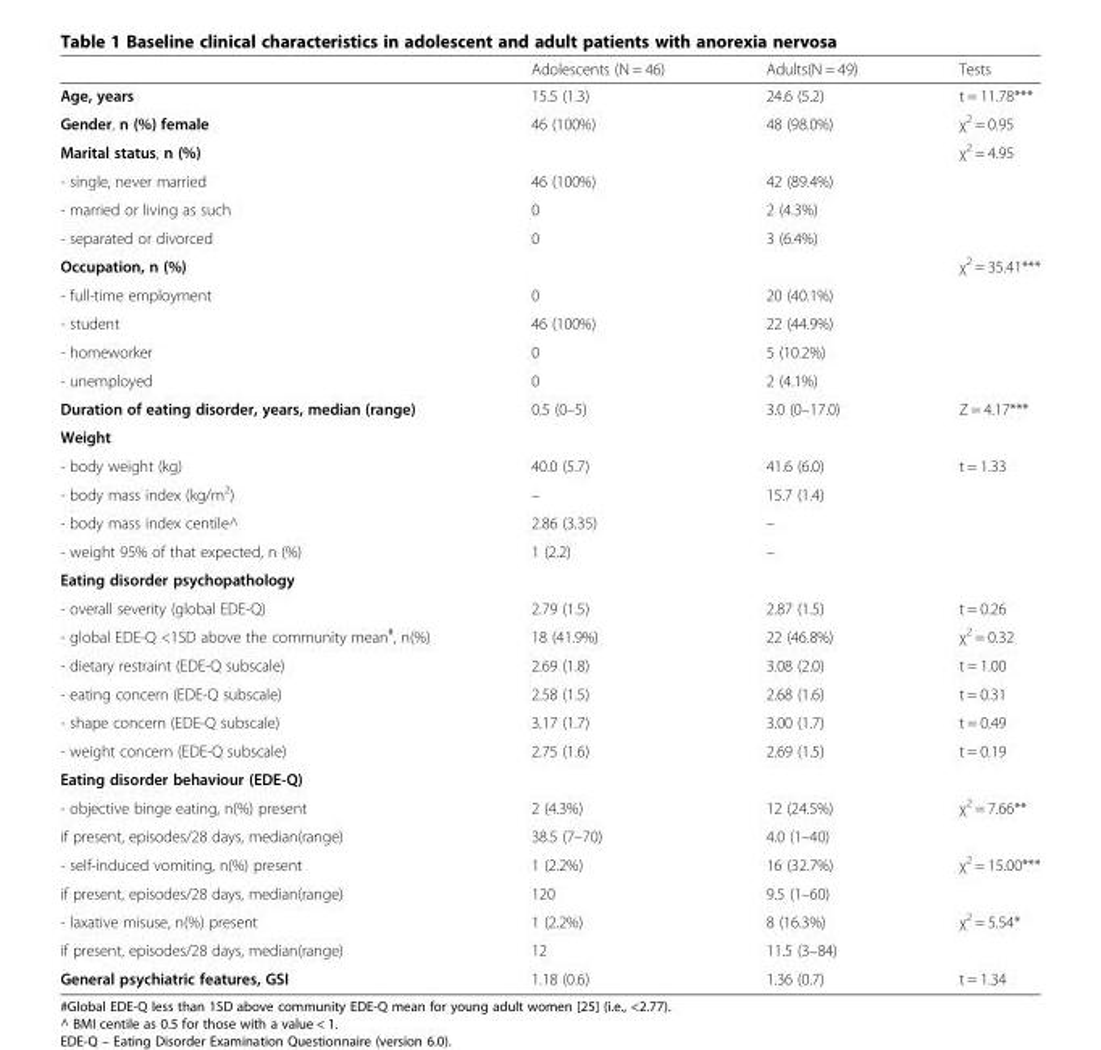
<table><thead><tr><td></td><td>Adolescents (N = 46)</td><td>Adults(N = 49)</td><td>Tests</td></tr></thead><tbody><tr><td>Age, years</td><td>15.5 (1.3)</td><td>24.6 (5.2)</td><td>t = 11.78***</td></tr><tr><td>Gender, n (%) female</td><td>46 (100%)</td><td>48 (98.0%)</td><td>χ<sup>2</sup> = 0.95</td></tr><tr><td>Marital status, n (%)</td><td></td><td></td><td>χ<sup>2</sup> = 4.95</td></tr><tr><td>- single, never married</td><td>46 (100%)</td><td>42 (89.4%)</td><td rowspan="3"></td></tr><tr><td>- married or living as such</td><td>0</td><td>2 (4.3%)</td></tr><tr><td>- separated or divorced</td><td>0</td><td>3 (6.4%)</td></tr><tr><td>Occupation, n (%)</td><td></td><td></td><td>χ<sup>2</sup> = 35.41***</td></tr><tr><td>- full-time employment</td><td>0</td><td>20 (40.1%)</td><td rowspan="4"></td></tr><tr><td>- student</td><td>46 (100%)</td><td>22 (44.9%)</td></tr><tr><td>- homeworker</td><td>0</td><td>5 (10.2%)</td></tr><tr><td>- unemployed</td><td>0</td><td>2 (4.1%)</td></tr><tr><td>Duration of eating disorder, years, median (range)</td><td>0.5 (0–5)</td><td>3.0 (0–17.0)</td><td>Z = 4.17***</td></tr><tr><td colspan="4">Weight</td></tr><tr><td>- body weight (kg)</td><td>40.0 (5.7)</td><td>41.6 (6.0)</td><td>t = 1.33</td></tr><tr><td>- body mass index (kg/m<sup>2</sup>)</td><td>–</td><td>15.7 (1.4)</td><td rowspan="3"></td></tr><tr><td>- body mass index centile^</td><td>2.86 (3.35)</td><td>–</td></tr><tr><td>- weight 95% of that expected, n (%)</td><td>1 (2.2)</td><td>–</td></tr><tr><td colspan="4">Eating disorder psychopathology</td></tr><tr><td>- overall severity (global EDE-Q)</td><td>2.79 (1.5)</td><td>2.87 (1.5)</td><td>t = 0.26</td></tr><tr><td>- global EDE-Q &lt;1SD above the community mean<sup>#</sup>, n(%)</td><td>18 (41.9%)</td><td>22 (46.8%)</td><td>χ<sup>2</sup> = 0.32</td></tr><tr><td>- dietary restraint (EDE-Q subscale)</td><td>2.69 (1.8)</td><td>3.08 (2.0)</td><td>t = 1.00</td></tr><tr><td>- eating concern (EDE-Q subscale)</td><td>2.58 (1.5)</td><td>2.68 (1.6)</td><td>t = 0.31</td></tr><tr><td>- shape concern (EDE-Q subscale)</td><td>3.17 (1.7)</td><td>3.00 (1.7)</td><td>t = 0.49</td></tr><tr><td>- weight concern (EDE-Q subscale)</td><td>2.75 (1.6)</td><td>2.69 (1.5)</td><td>t = 0.19</td></tr><tr><td colspan="4">Eating disorder behaviour (EDE-Q)</td></tr><tr><td>- objective binge eating, n(%) present</td><td>2 (4.3%)</td><td>12 (24.5%)</td><td rowspan="2">χ<sup>2</sup> = 7.66**</td></tr><tr><td>if present, episodes/28 days, median(range)</td><td>38.5 (7–70)</td><td>4.0 (1–40)</td></tr><tr><td>- self-induced vomiting, n(%) present</td><td>1 (2.2%)</td><td>16 (32.7%)</td><td rowspan="2">χ<sup>2</sup> = 15.00***</td></tr><tr><td>if present, episodes/28 days, median(range)</td><td>120</td><td>9.5 (1–60)</td></tr><tr><td>- laxative misuse, n(%) present</td><td>1 (2.2%)</td><td>8 (16.3%)</td><td rowspan="2">χ<sup>2</sup> = 5.54*</td></tr><tr><td>if present, episodes/28 days, median(range)</td><td>12</td><td>11.5 (3–84)</td></tr><tr><td>General psychiatric features, GSI</td><td>1.18 (0.6)</td><td>1.36 (0.7)</td><td>t = 1.34</td></tr></tbody></table>